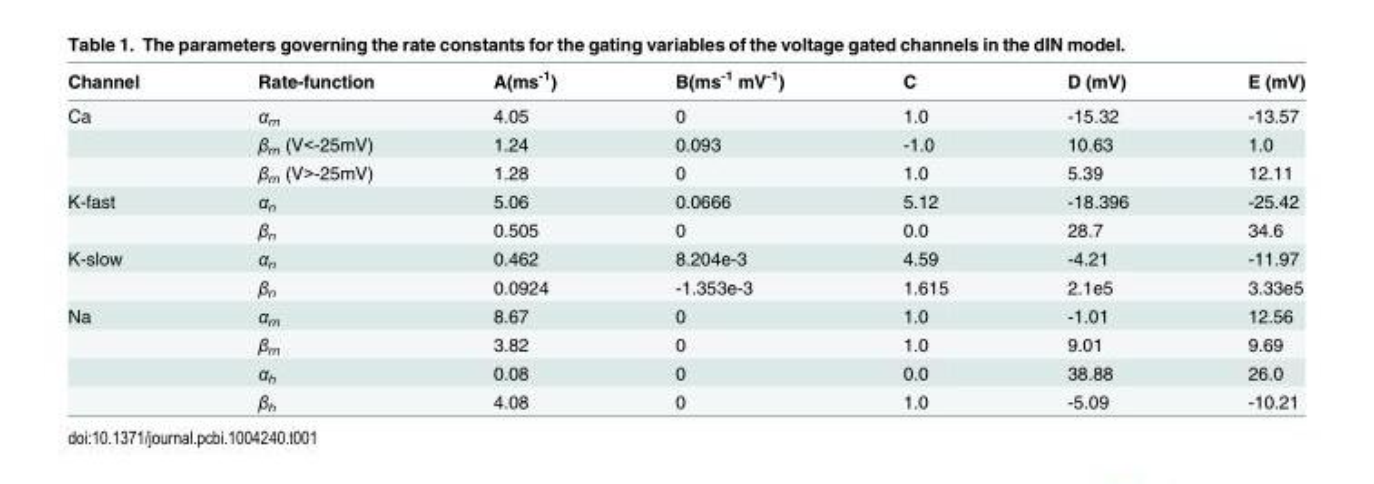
<table><thead><tr><td>Channel</td><td>Rate-function</td><td>A(ms<sup>-1</sup>)</td><td>B(ms<sup>-1</sup> mV<sup>-1</sup>)</td><td>C</td><td>D (mV)</td><td>E (mV)</td></tr></thead><tbody><tr><td rowspan="3">Ca</td><td>α<sub>m</sub></td><td>4.05</td><td>0</td><td>1.0</td><td>-15.32</td><td>-13.57</td></tr><tr><td>β<sub>m</sub> (V&lt;-25mV)</td><td>1.24</td><td>0.093</td><td>-1.0</td><td>10.63</td><td>1.0</td></tr><tr><td>β<sub>m</sub> (V&gt;-25mV)</td><td>1.28</td><td>0</td><td>1.0</td><td>5.39</td><td>12.11</td></tr><tr><td rowspan="2">K-fast</td><td>α<sub>n</sub></td><td>5.06</td><td>0.0666</td><td>5.12</td><td>-18.396</td><td>-25.42</td></tr><tr><td>β<sub>n</sub></td><td>0.505</td><td>0</td><td>0.0</td><td>28.7</td><td>34.6</td></tr><tr><td rowspan="2">K-slow</td><td>α<sub>n</sub></td><td>0.462</td><td>8.204e-3</td><td>4.59</td><td>-4.21</td><td>-11.97</td></tr><tr><td>β<sub>n</sub></td><td>0.0924</td><td>-1.353e-3</td><td>1.615</td><td>2.1e5</td><td>3.33e5</td></tr><tr><td rowspan="4">Na</td><td>α<sub>m</sub></td><td>8.67</td><td>0</td><td>1.0</td><td>-1.01</td><td>12.56</td></tr><tr><td>β<sub>m</sub></td><td>3.82</td><td>0</td><td>1.0</td><td>9.01</td><td>9.69</td></tr><tr><td>α<sub>h</sub></td><td>0.08</td><td>0</td><td>0.0</td><td>38.88</td><td>26.0</td></tr><tr><td>β<sub>h</sub></td><td>4.08</td><td>0</td><td>1.0</td><td>-5.09</td><td>-10.21</td></tr></tbody></table>